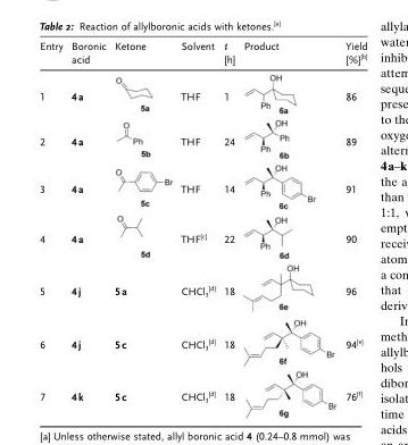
<table><thead><tr><td>Entry</td><td>Boronic acid</td><td>Ketone</td><td>Solvent</td><td>t [h]</td><td>Product</td><td>Yield [%]<sup>[b]</sup></td></tr></thead><tbody><tr><td>1</td><td>4a</td><td></td><td>THF</td><td>1</td><td></td><td>86</td></tr><tr><td>2</td><td>4a</td><td></td><td>THF</td><td>24</td><td></td><td>89</td></tr><tr><td>3</td><td>4a</td><td></td><td>THF</td><td>14</td><td></td><td>91</td></tr><tr><td>4</td><td>4a</td><td></td><td>THF<sup>[c]</sup></td><td>22</td><td></td><td>90</td></tr><tr><td>5</td><td>4j</td><td>5a</td><td>CHCl<sub>3</sub> <sup>[d]</sup></td><td>18</td><td></td><td>96</td></tr><tr><td>6</td><td>4j</td><td>5c</td><td>CHCl<sub>3</sub> <sup>[d]</sup></td><td>18</td><td></td><td>94<sup>[e]</sup></td></tr><tr><td>7</td><td>4k</td><td>5c</td><td>CHCl<sub>3</sub> <sup>[d]</sup></td><td>18</td><td></td><td>76<sup>[f]</sup></td></tr></tbody></table>